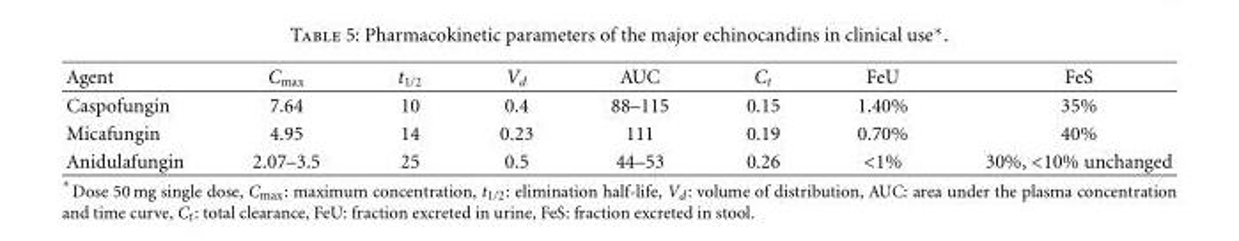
<table><thead><tr><td>Agent</td><td>C<sub>max</sub></td><td>t<sub>1/2</sub></td><td>V<sub>d</sub></td><td>AUC</td><td>C<sub>t</sub></td><td>FeU</td><td>FeS</td></tr></thead><tbody><tr><td>Caspofungin</td><td>7.64</td><td>10</td><td>0.4</td><td>88–115</td><td>0.15</td><td>1.40%</td><td>35%</td></tr><tr><td>Micafungin</td><td>4.95</td><td>14</td><td>0.23</td><td>111</td><td>0.19</td><td>0.70%</td><td>40%</td></tr><tr><td>Anidulafungin</td><td>2.07–3.5</td><td>25</td><td>0.5</td><td>44–53</td><td>0.26</td><td>&lt;1%</td><td>30%, &lt;10% unchanged</td></tr></tbody></table>